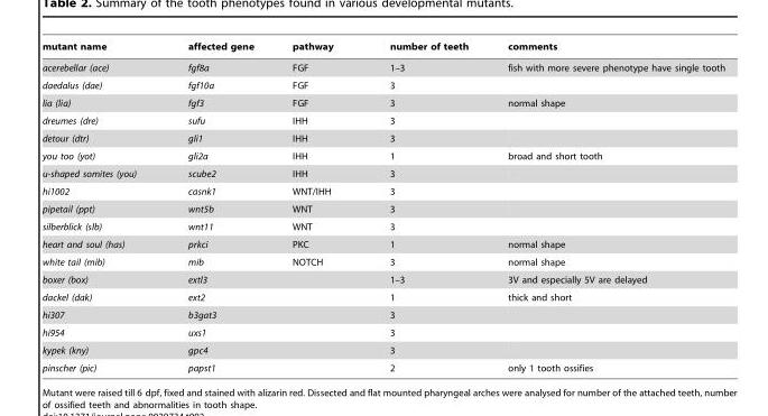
<table><thead><tr><td>mutant name</td><td>affected gene</td><td>pathway</td><td>number of teeth</td><td>comments</td></tr></thead><tbody><tr><td>acerebellar (ace)</td><td>fgf8a</td><td>FGF</td><td>1–3</td><td>fish with more severe phenotype have single tooth</td></tr><tr><td>daedalus (dae)</td><td>fgf10a</td><td>FGF</td><td>3</td><td></td></tr><tr><td>lia (lia)</td><td>fgf3</td><td>FGF</td><td>3</td><td>normal shape</td></tr><tr><td>dreumes (dre)</td><td>sufu</td><td>IHH</td><td>3</td><td></td></tr><tr><td>detour (dtr)</td><td>gli1</td><td>IHH</td><td>3</td><td></td></tr><tr><td>you too (yot)</td><td>gli2a</td><td>IHH</td><td>1</td><td>broad and short tooth</td></tr><tr><td>u-shaped somites (you)</td><td>scube2</td><td>IHH</td><td>3</td><td></td></tr><tr><td>hi1002</td><td>casnk1</td><td>WNT/IHH</td><td>3</td><td></td></tr><tr><td>pipetail (ppt)</td><td>wnt5b</td><td>WNT</td><td>3</td><td></td></tr><tr><td>silberblick (slb)</td><td>wnt11</td><td>WNT</td><td>3</td><td></td></tr><tr><td>heart and soul (has)</td><td>prkci</td><td>PKC</td><td>1</td><td>normal shape</td></tr><tr><td>white tail (mib)</td><td>mib</td><td>NOTCH</td><td>3</td><td>normal shape</td></tr><tr><td>boxer (box)</td><td>extl3</td><td></td><td>1–3</td><td>3V and especially 5V are delayed</td></tr><tr><td>dackel (dak)</td><td>ext2</td><td></td><td>1</td><td>thick and short</td></tr><tr><td>hi307</td><td>b3gat3</td><td></td><td>3</td><td></td></tr><tr><td>hi954</td><td>uxs1</td><td></td><td>3</td><td></td></tr><tr><td>kypek (kny)</td><td>gpc4</td><td></td><td>3</td><td></td></tr><tr><td>pinscher (pic)</td><td>papst1</td><td></td><td>2</td><td>only 1 tooth ossifies</td></tr></tbody></table>